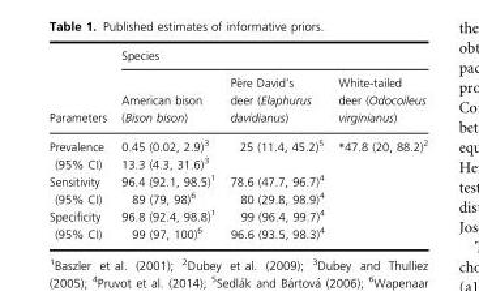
<table><thead><tr><td rowspan="2">Parameters</td><td colspan="3">Species</td></tr><tr><td>American bison (Bison bison)</td><td>P�ere David’s deer (Elaphurus davidianus)</td><td>White-tailed deer (Odocoileus virginianus)</td></tr></thead><tbody><tr><td>Prevalence (95% CI)</td><td>0.45 (0.02, 2.9)<sup>3</sup> 13.3 (4.3, 31.6)<sup>3</sup></td><td>25 (11.4, 45.2)<sup>5</sup></td><td>*47.8 (20, 88.2)<sup>2</sup></td></tr><tr><td>Sensitivity (95% CI)</td><td>96.4 (92.1, 98.5)<sup>1</sup> 89 (79, 98)<sup>6</sup></td><td colspan="2">78.6 (47.7, 96.7)<sup>4</sup> 80 (29.8, 98.9)<sup>4</sup></td></tr><tr><td>Specificity (95% CI)</td><td>96.8 (92.4, 98.8)<sup>1</sup> 99 (97, 100)<sup>6</sup></td><td colspan="2">99 (96.4, 99.7)<sup>4</sup> 96.6 (93.5, 98.3)<sup>4</sup></td></tr></tbody></table>